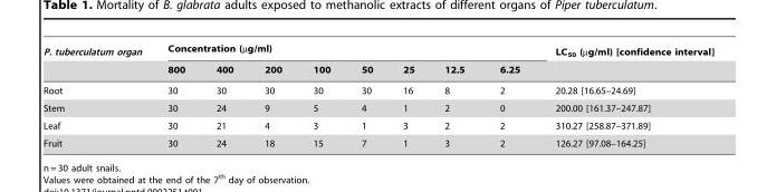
<table><thead><tr><td rowspan="2">P. tuberculatum organ</td><td colspan="8">Concentration (µg/ml)</td><td rowspan="2">LC<sub>50</sub> (µg/ml) [confidence interval]</td></tr><tr><td>800</td><td>400</td><td>200</td><td>100</td><td>50</td><td>25</td><td>12.5</td><td>6.25</td></tr></thead><tbody><tr><td>Root</td><td>30</td><td>30</td><td>30</td><td>30</td><td>30</td><td>16</td><td>8</td><td>2</td><td>20.28 [16.65–24.69]</td></tr><tr><td>Stem</td><td>30</td><td>24</td><td>9</td><td>5</td><td>4</td><td>1</td><td>2</td><td>0</td><td>200.00 [161.37–247.87]</td></tr><tr><td>Leaf</td><td>30</td><td>21</td><td>4</td><td>3</td><td>1</td><td>3</td><td>2</td><td>2</td><td>310.27 [258.87–371.89]</td></tr><tr><td>Fruit</td><td>30</td><td>24</td><td>18</td><td>15</td><td>7</td><td>1</td><td>3</td><td>2</td><td>126.27 [97.08–164.25]</td></tr></tbody></table>